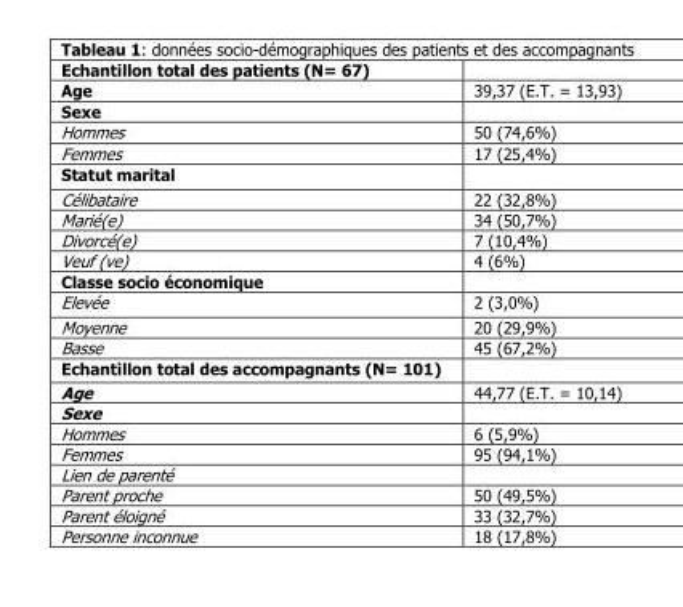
<table><tbody><tr><td colspan="2">Echantillon total des patients (N= 67)</td></tr><tr><td>Age</td><td>39,37 (E.T. = 13,93)</td></tr><tr><td colspan="2">Sexe</td></tr><tr><td>Hommes</td><td>50 (74,6%)</td></tr><tr><td>Femmes</td><td>17 (25,4%)</td></tr><tr><td colspan="2">Statut marital</td></tr><tr><td>Célibataire</td><td>22 (32,8%)</td></tr><tr><td>Marié(e)</td><td>34 (50,7%)</td></tr><tr><td>Divorcé(e)</td><td>7 (10,4%)</td></tr><tr><td>Veuf (ve)</td><td>4 (6%)</td></tr><tr><td colspan="2">Classe socio économique</td></tr><tr><td>Elevée</td><td>2 (3,0%)</td></tr><tr><td>Moyenne</td><td>20 (29,9%)</td></tr><tr><td>Basse</td><td>45 (67,2%)</td></tr><tr><td colspan="2">Echantillon total des accompagnants (N= 101)</td></tr><tr><td>Age</td><td>44,77 (E.T. = 10,14)</td></tr><tr><td colspan="2">Sexe</td></tr><tr><td>Hommes</td><td>6 (5,9%)</td></tr><tr><td>Femmes</td><td>95 (94,1%)</td></tr><tr><td colspan="2">Lien de parenté</td></tr><tr><td>Parent proche</td><td>50 (49,5%)</td></tr><tr><td>Parent éloigné</td><td>33 (32,7%)</td></tr><tr><td>Personne inconnue</td><td>18 (17,8%)</td></tr></tbody></table>